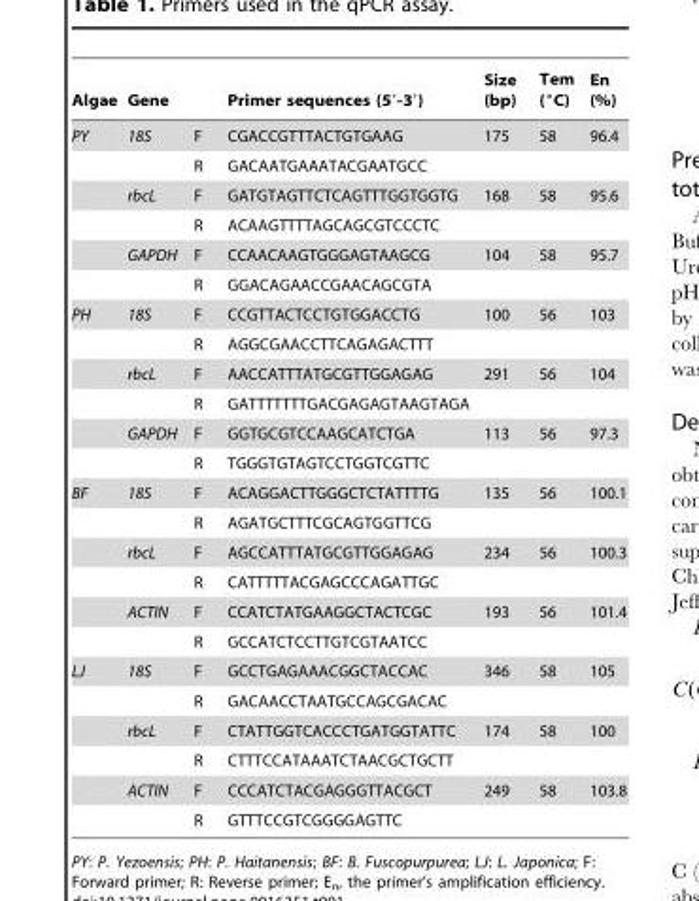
<table><thead><tr><td>Algae</td><td>Gene</td><td></td><td>Primer sequences (5′-3′)</td><td>Size (bp)</td><td>Tem (°C)</td><td>En (%)</td></tr></thead><tbody><tr><td rowspan="6">PY</td><td>18S</td><td>F</td><td>CGACCGTTTACTGTGAAG</td><td>175</td><td>58</td><td>96.4</td></tr><tr><td></td><td>R</td><td>GACAATGAAATACGAATGCC</td><td></td><td></td><td></td></tr><tr><td>rbcL</td><td>F</td><td>GATGTAGTTCTCAGTTTGGTGGTG</td><td>168</td><td>58</td><td>95.6</td></tr><tr><td></td><td>R</td><td>ACAAGTTTTAGCAGCGTCCCTC</td><td></td><td></td><td></td></tr><tr><td>GAPDH</td><td>F</td><td>CCAACAAGTGGGAGTAAGCG</td><td>104</td><td>58</td><td>95.7</td></tr><tr><td></td><td>R</td><td>GGACAGAACCGAACAGCGTA</td><td></td><td></td><td></td></tr><tr><td rowspan="6">PH</td><td>18S</td><td>F</td><td>CCGTTACTCCTGTGGACCTG</td><td>100</td><td>56</td><td>103</td></tr><tr><td></td><td>R</td><td>AGGCGAACCTTCAGAGACTTT</td><td></td><td></td><td></td></tr><tr><td>rbcL</td><td>F</td><td>AACCATTTATGCGTTGGAGAG</td><td>291</td><td>56</td><td>104</td></tr><tr><td></td><td>R</td><td>GATTTTTTTGACGAGAGTAAGTAGA</td><td></td><td></td><td></td></tr><tr><td>GAPDH</td><td>F</td><td>GGTGCGTCCAAGCATCTGA</td><td>113</td><td>56</td><td>97.3</td></tr><tr><td></td><td>R</td><td>TGGGTGTAGTCCTGGTCGTTC</td><td></td><td></td><td></td></tr><tr><td rowspan="6">BF</td><td>18S</td><td>F</td><td>ACAGGACTTGGGCTCTATTTTG</td><td>135</td><td>56</td><td>100.1</td></tr><tr><td></td><td>R</td><td>AGATGCTTTCGCAGTGGTTCG</td><td></td><td></td><td></td></tr><tr><td>rbcL</td><td>F</td><td>AGCCATTTATGCGTTGGAGAG</td><td>234</td><td>56</td><td>100.3</td></tr><tr><td></td><td>R</td><td>CATTTTTACGAGCCCAGATTGC</td><td></td><td></td><td></td></tr><tr><td>ACTIN</td><td>F</td><td>CCATCTATGAAGGCTACTCGC</td><td>193</td><td>56</td><td>101.4</td></tr><tr><td></td><td>R</td><td>GCCATCTCCTTGTCGTAATCC</td><td></td><td></td><td></td></tr><tr><td rowspan="6">LJ</td><td>18S</td><td>F</td><td>GCCTGAGAAACGGCTACCAC</td><td>346</td><td>58</td><td>105</td></tr><tr><td></td><td>R</td><td>GACAACCTAATGCCAGCGACAC</td><td></td><td></td><td></td></tr><tr><td>rbcL</td><td>F</td><td>CTATTGGTCACCCTGATGGTATTC</td><td>174</td><td>58</td><td>100</td></tr><tr><td></td><td>R</td><td>CTTTCCATAAATCTAACGCTGCTT</td><td></td><td></td><td></td></tr><tr><td>ACTIN</td><td>F</td><td>CCCATCTACGAGGGTTACGCT</td><td>249</td><td>58</td><td>103.8</td></tr><tr><td></td><td>R</td><td>GTTTCCGTCGGGGAGTTC</td><td></td><td></td><td></td></tr></tbody></table>